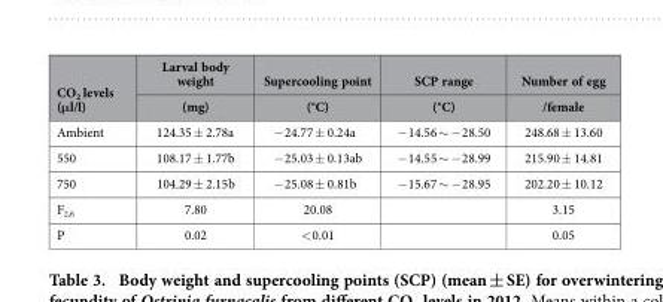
<table><thead><tr><td rowspan="2">CO<sub>2</sub> levels (μl/l)</td><td rowspan="2">Larval body weight (mg)</td><td rowspan="2">Supercooling point (°C)</td><td rowspan="2">SCP range (°C)</td><td rowspan="2">Number of egg /female</td></tr><tr></tr></thead><tbody><tr><td>Ambient</td><td>124.35 ± 2.78a</td><td>− 24.77 ± 0.24a</td><td>− 14.56 ∼ − 28.50</td><td>248.68 ± 13.60</td></tr><tr><td>550</td><td>108.17 ± 1.77b</td><td>− 25.03 ± 0.13ab</td><td>− 14.55 ∼ − 28.99</td><td>215.90 ± 14.81</td></tr><tr><td>750</td><td>104.29 ± 2.15b</td><td>− 25.08 ± 0.81b</td><td>− 15.67 ∼ − 28.95</td><td>202.20 ± 10.12</td></tr><tr><td>F<sub>2,6</sub></td><td>7.80</td><td>20.08</td><td></td><td>3.15</td></tr><tr><td>P</td><td>0.02</td><td>&lt; 0.01</td><td></td><td>0.05</td></tr></tbody></table>